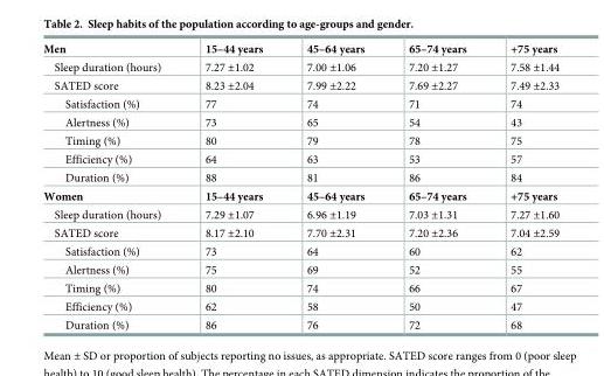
<table><tbody><tr><td>Men</td><td>15–44 years</td><td>45–64 years</td><td>65–74 years</td><td>+75 years</td></tr><tr><td>Sleep duration (hours)</td><td>7.27 ±1.02</td><td>7.00 ±1.06</td><td>7.20 ±1.27</td><td>7.58 ±1.44</td></tr><tr><td>SATED score</td><td>8.23 ±2.04</td><td>7.99 ±2.22</td><td>7.69 ±2.27</td><td>7.49 ±2.33</td></tr><tr><td>Satisfaction (%)</td><td>77</td><td>74</td><td>71</td><td>74</td></tr><tr><td>Alertness (%)</td><td>73</td><td>65</td><td>54</td><td>43</td></tr><tr><td>Timing (%)</td><td>80</td><td>79</td><td>78</td><td>75</td></tr><tr><td>Efficiency (%)</td><td>64</td><td>63</td><td>53</td><td>57</td></tr><tr><td>Duration (%)</td><td>88</td><td>81</td><td>86</td><td>84</td></tr><tr><td>Women</td><td>15–44 years</td><td>45–64 years</td><td>65–74 years</td><td>+75 years</td></tr><tr><td>Sleep duration (hours)</td><td>7.29 ±1.07</td><td>6.96 ±1.19</td><td>7.03 ±1.31</td><td>7.27 ±1.60</td></tr><tr><td>SATED score</td><td>8.17 ±2.10</td><td>7.70 ±2.31</td><td>7.20 ±2.36</td><td>7.04 ±2.59</td></tr><tr><td>Satisfaction (%)</td><td>73</td><td>64</td><td>60</td><td>62</td></tr><tr><td>Alertness (%)</td><td>75</td><td>69</td><td>52</td><td>55</td></tr><tr><td>Timing (%)</td><td>80</td><td>74</td><td>66</td><td>67</td></tr><tr><td>Efficiency (%)</td><td>62</td><td>58</td><td>50</td><td>47</td></tr><tr><td>Duration (%)</td><td>86</td><td>76</td><td>72</td><td>68</td></tr></tbody></table>